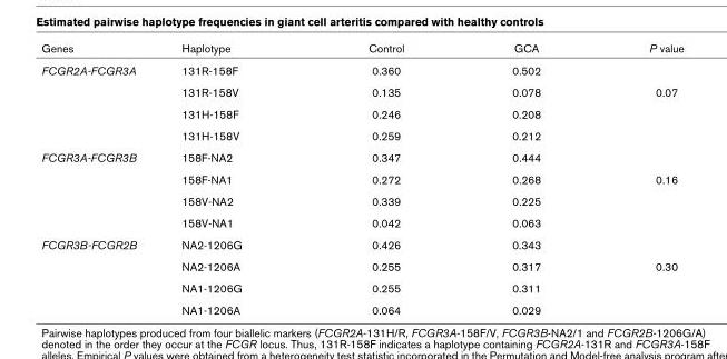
<table><thead><tr><td>Genes</td><td>Haplotype</td><td>Control</td><td>GCA</td><td>P value</td></tr></thead><tbody><tr><td rowspan="4">FCGR2A-FCGR3A</td><td>131R-158F</td><td>0.360</td><td>0.502</td><td></td></tr><tr><td>131R-158V</td><td>0.135</td><td>0.078</td><td>0.07</td></tr><tr><td>131H-158F</td><td>0.246</td><td>0.208</td><td></td></tr><tr><td>131H-158V</td><td>0.259</td><td>0.212</td><td></td></tr><tr><td rowspan="4">FCGR3A-FCGR3B</td><td>158F-NA2</td><td>0.347</td><td>0.444</td><td></td></tr><tr><td>158F-NA1</td><td>0.272</td><td>0.268</td><td>0.16</td></tr><tr><td>158V-NA2</td><td>0.339</td><td>0.225</td><td></td></tr><tr><td>158V-NA1</td><td>0.042</td><td>0.063</td><td></td></tr><tr><td rowspan="4">FCGR3B-FCGR2B</td><td>NA2-1206G</td><td>0.426</td><td>0.343</td><td></td></tr><tr><td>NA2-1206A</td><td>0.255</td><td>0.317</td><td>0.30</td></tr><tr><td>NA1-1206G</td><td>0.255</td><td>0.311</td><td></td></tr><tr><td>NA1-1206A</td><td>0.064</td><td>0.029</td><td></td></tr></tbody></table>